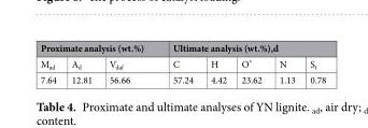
<table><thead><tr><td colspan="3">Proximate analysis (wt.%)</td><td colspan="5">Ultimate analysis (wt.%),d</td></tr><tr><td>M<sub>ad</sub></td><td>A<sub>d</sub></td><td>V<sub>daf</sub></td><td>C</td><td>H</td><td>O*</td><td>N</td><td>S<sub>t</sub></td></tr></thead><tbody><tr><td>7.64</td><td>12.81</td><td>56.66</td><td>57.24</td><td>4.42</td><td>23.62</td><td>1.13</td><td>0.78</td></tr></tbody></table>